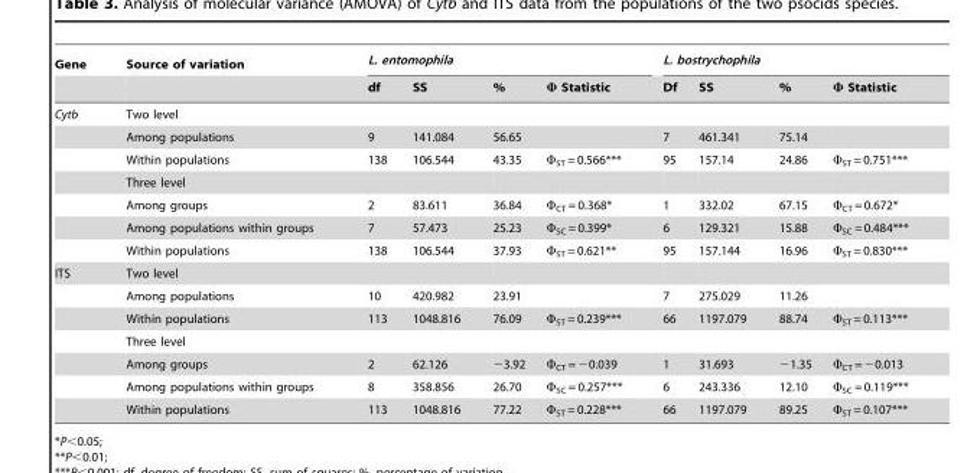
<table><thead><tr><td rowspan="2">Gene</td><td rowspan="2">Source of variation</td><td colspan="4">L. entomophila</td><td colspan="4">L. bostrychophila</td></tr><tr><td>df</td><td>SS</td><td>%</td><td>Φ Statistic</td><td>Df</td><td>SS</td><td>%</td><td>Φ Statistic</td></tr></thead><tbody><tr><td rowspan="7">Cytb</td><td>Two level</td><td></td><td></td><td></td><td></td><td></td><td></td><td></td><td></td></tr><tr><td>Among populations</td><td>9</td><td>141.084</td><td>56.65</td><td></td><td>7</td><td>461.341</td><td>75.14</td><td></td></tr><tr><td>Within populations</td><td>138</td><td>106.544</td><td>43.35</td><td>Φ<sub>ST</sub> = 0.566***</td><td>95</td><td>157.14</td><td>24.86</td><td>Φ<sub>ST</sub> = 0.751***</td></tr><tr><td>Three level</td><td></td><td></td><td></td><td></td><td></td><td></td><td></td><td></td></tr><tr><td>Among groups</td><td>2</td><td>83.611</td><td>36.84</td><td>Φ<sub>CT</sub> = 0.368*</td><td>1</td><td>332.02</td><td>67.15</td><td>Φ<sub>CT</sub> = 0.672*</td></tr><tr><td>Among populations within groups</td><td>7</td><td>57.473</td><td>25.23</td><td>Φ<sub>SC</sub> = 0.399*</td><td>6</td><td>129.321</td><td>15.88</td><td>Φ<sub>SC</sub> = 0.484***</td></tr><tr><td>Within populations</td><td>138</td><td>106.544</td><td>37.93</td><td>Φ<sub>ST</sub> = 0.621**</td><td>95</td><td>157.144</td><td>16.96</td><td>Φ<sub>ST</sub> = 0.830***</td></tr><tr><td rowspan="7">ITS</td><td>Two level</td><td></td><td></td><td></td><td></td><td></td><td></td><td></td><td></td></tr><tr><td>Among populations</td><td>10</td><td>420.982</td><td>23.91</td><td></td><td>7</td><td>275.029</td><td>11.26</td><td></td></tr><tr><td>Within populations</td><td>113</td><td>1048.816</td><td>76.09</td><td>Φ<sub>ST</sub> = 0.239***</td><td>66</td><td>1197.079</td><td>88.74</td><td>Φ<sub>ST</sub> = 0.113***</td></tr><tr><td>Three level</td><td></td><td></td><td></td><td></td><td></td><td></td><td></td><td></td></tr><tr><td>Among groups</td><td>2</td><td>62.126</td><td>−3.92</td><td>Φ<sub>CT</sub> = −0.039</td><td>1</td><td>31.693</td><td>−1.35</td><td>Φ<sub>CT</sub> = −0.013</td></tr><tr><td>Among populations within groups</td><td>8</td><td>358.856</td><td>26.70</td><td>Φ<sub>SC</sub> = 0.257***</td><td>6</td><td>243.336</td><td>12.10</td><td>Φ<sub>SC</sub> = 0.119***</td></tr><tr><td>Within populations</td><td>113</td><td>1048.816</td><td>77.22</td><td>Φ<sub>ST</sub> = 0.228***</td><td>66</td><td>1197.079</td><td>89.25</td><td>Φ<sub>ST</sub> = 0.107***</td></tr></tbody></table>